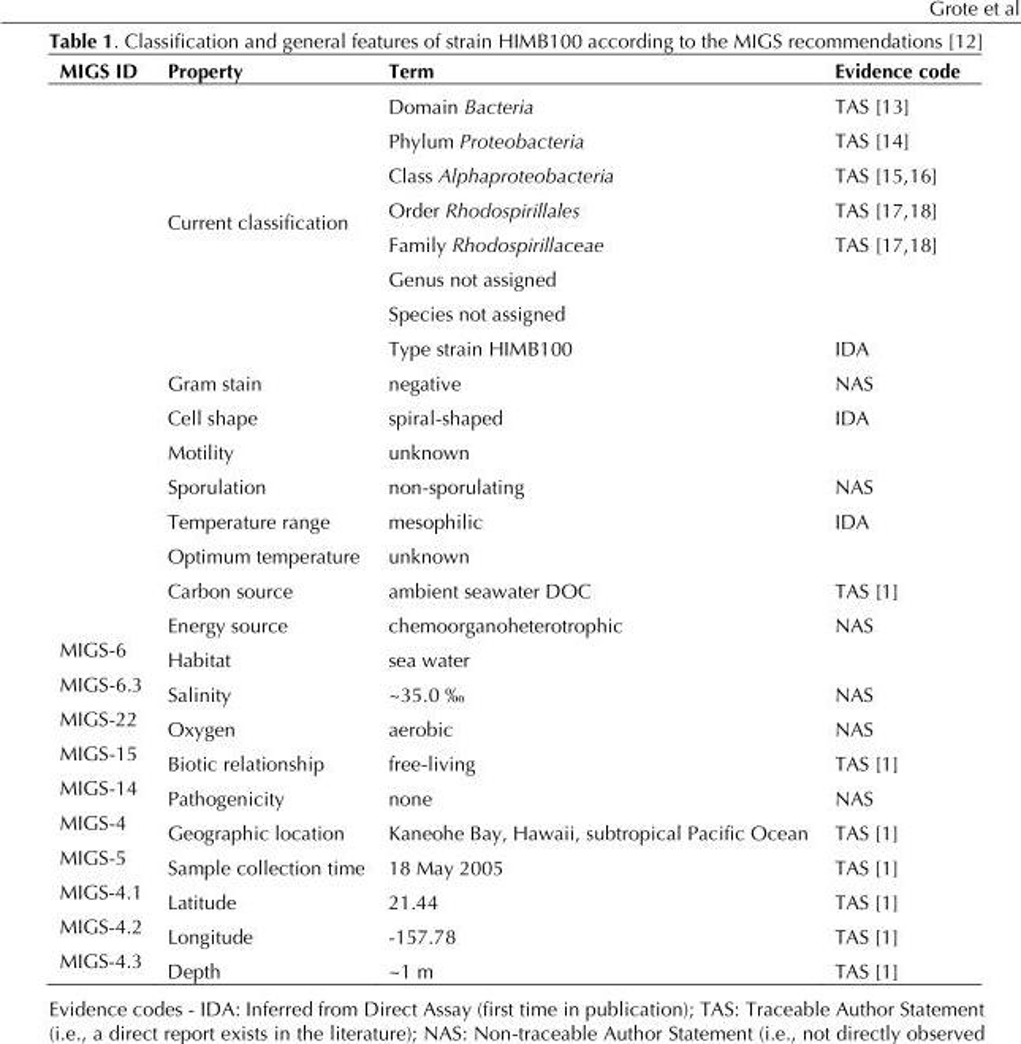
<table><thead><tr><td>MIGS ID</td><td>Property</td><td>Term</td><td>Evidence code</td></tr></thead><tbody><tr><td></td><td rowspan="8">Current classification</td><td>Domain Bacteria</td><td>TAS [13]</td></tr><tr><td></td><td>Phylum Proteobacteria</td><td>TAS [14]</td></tr><tr><td></td><td>Class Alphaproteobacteria</td><td>TAS [15,16]</td></tr><tr><td></td><td>Order Rhodospirillales</td><td>TAS [17,18]</td></tr><tr><td></td><td>Family Rhodospirillaceae</td><td>TAS [17,18]</td></tr><tr><td></td><td>Genus not assigned</td><td></td></tr><tr><td></td><td>Species not assigned</td><td></td></tr><tr><td></td><td>Type strain HIMB100</td><td>IDA</td></tr><tr><td></td><td>Gram stain</td><td>negative</td><td>NAS</td></tr><tr><td></td><td>Cell shape</td><td>spiral-shaped</td><td>IDA</td></tr><tr><td></td><td>Motility</td><td>unknown</td><td></td></tr><tr><td></td><td>Sporulation</td><td>non-sporulating</td><td>NAS</td></tr><tr><td></td><td>Temperature range</td><td>mesophilic</td><td>IDA</td></tr><tr><td></td><td>Optimum temperature</td><td>unknown</td><td></td></tr><tr><td></td><td>Carbon source</td><td>ambient seawater DOC</td><td>TAS [1]</td></tr><tr><td></td><td>Energy source</td><td>chemoorganoheterotrophic</td><td>NAS</td></tr><tr><td>MIGS-6</td><td>Habitat</td><td>sea water</td><td></td></tr><tr><td>MIGS-6.3</td><td>Salinity</td><td>~35.0 ‰</td><td>NAS</td></tr><tr><td>MIGS-22</td><td>Oxygen</td><td>aerobic</td><td>NAS</td></tr><tr><td>MIGS-15</td><td>Biotic relationship</td><td>free-living</td><td>TAS [1]</td></tr><tr><td>MIGS-14</td><td>Pathogenicity</td><td>none</td><td>NAS</td></tr><tr><td>MIGS-4</td><td>Geographic location</td><td>Kaneohe Bay, Hawaii, subtropical Pacific Ocean</td><td>TAS [1]</td></tr><tr><td>MIGS-5</td><td>Sample collection time</td><td>18 May 2005</td><td>TAS [1]</td></tr><tr><td>MIGS-4.1</td><td>Latitude</td><td>21.44</td><td>TAS [1]</td></tr><tr><td>MIGS-4.2</td><td>Longitude</td><td>-157.78</td><td>TAS [1]</td></tr><tr><td>MIGS-4.3</td><td>Depth</td><td>~1 m</td><td>TAS [1]</td></tr></tbody></table>